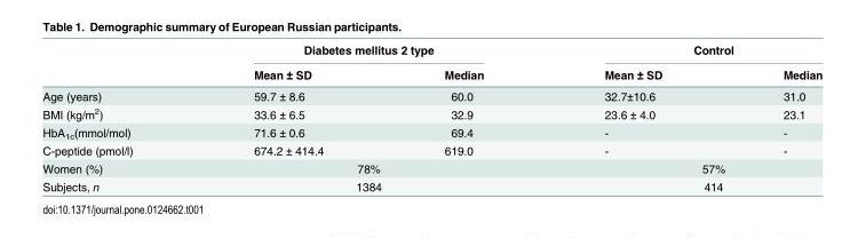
<table><thead><tr><td rowspan="2"></td><td colspan="2">Diabetes mellitus 2 type</td><td colspan="2">Control</td></tr><tr><td>Mean ± SD</td><td>Median</td><td>Mean ± SD</td><td>Median</td></tr></thead><tbody><tr><td>Age (years)</td><td>59.7 ± 8.6</td><td>60.0</td><td>32.7±10.6</td><td>31.0</td></tr><tr><td>BMI (kg/m<sup>2</sup>)</td><td>33.6 ± 6.5</td><td>32.9</td><td>23.6 ± 4.0</td><td>23.1</td></tr><tr><td>HbA<sub>1c</sub>(mmol/mol)</td><td>71.6 ± 0.6</td><td>69.4</td><td>-</td><td>-</td></tr><tr><td>C-peptide (pmol/l)</td><td>674.2 ± 414.4</td><td>619.0</td><td>-</td><td>-</td></tr><tr><td>Women (%)</td><td colspan="2">78%</td><td colspan="2">57%</td></tr><tr><td>Subjects, n</td><td colspan="2">1384</td><td colspan="2">414</td></tr></tbody></table>